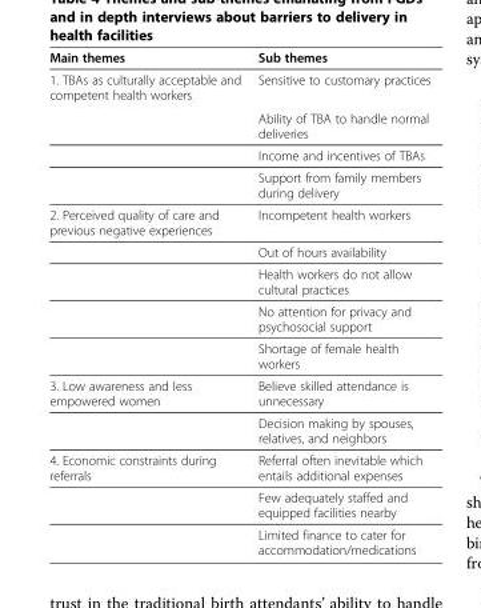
<table><thead><tr><td>Main themes</td><td>Sub themes</td></tr></thead><tbody><tr><td rowspan="4">1. TBAs as culturally acceptable and competent health workers</td><td>Sensitive to customary practices</td></tr><tr><td>Ability of TBA to handle normal deliveries</td></tr><tr><td>Income and incentives of TBAs</td></tr><tr><td>Support from family members during delivery</td></tr><tr><td rowspan="5">2. Perceived quality of care and previous negative experiences</td><td>Incompetent health workers</td></tr><tr><td>Out of hours availability</td></tr><tr><td>Health workers do not allow cultural practices</td></tr><tr><td>No attention for privacy and psychosocial support</td></tr><tr><td>Shortage of female health workers</td></tr><tr><td rowspan="2">3. Low awareness and less empowered women</td><td>Believe skilled attendance is unnecessary</td></tr><tr><td>Decision making by spouses, relatives, and neighbors</td></tr><tr><td rowspan="3">4. Economic constraints during referrals</td><td>Referral often inevitable which entails additional expenses</td></tr><tr><td>Few adequately staffed and equipped facilities nearby</td></tr><tr><td>Limited finance to cater for accommodation/medications</td></tr></tbody></table>